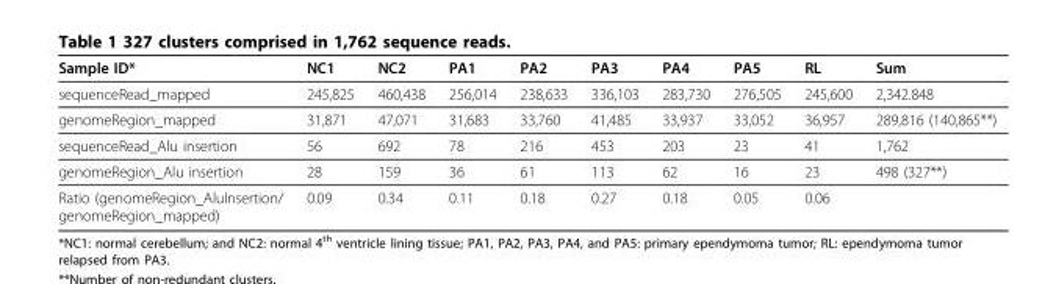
<table><thead><tr><td>Sample ID*</td><td>NC1</td><td>NC2</td><td>PA1</td><td>PA2</td><td>PA3</td><td>PA4</td><td>PA5</td><td>RL</td><td>Sum</td></tr></thead><tbody><tr><td>sequenceRead_mapped</td><td>245,825</td><td>460,438</td><td>256,014</td><td>238,633</td><td>336,103</td><td>283,730</td><td>276,505</td><td>245,600</td><td>2,342.848</td></tr><tr><td>genomeRegion_mapped</td><td>31,871</td><td>47,071</td><td>31,683</td><td>33,760</td><td>41,485</td><td>33,937</td><td>33,052</td><td>36,957</td><td>289,816 (140,865**)</td></tr><tr><td>sequenceRead_Alu insertion</td><td>56</td><td>692</td><td>78</td><td>216</td><td>453</td><td>203</td><td>23</td><td>41</td><td>1,762</td></tr><tr><td>genomeRegion_Alu insertion</td><td>28</td><td>159</td><td>36</td><td>61</td><td>113</td><td>62</td><td>16</td><td>23</td><td>498 (327**)</td></tr><tr><td>Ratio (genomeRegion_AluInsertion/ genomeRegion_mapped)</td><td>0.09</td><td>0.34</td><td>0.11</td><td>0.18</td><td>0.27</td><td>0.18</td><td>0.05</td><td>0.06</td><td></td></tr></tbody></table>